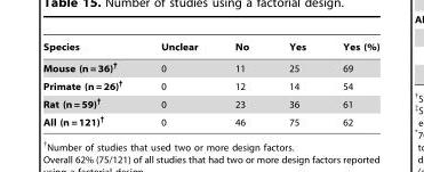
<table><thead><tr><td>Species</td><td>Unclear</td><td>No</td><td>Yes</td><td>Yes (%)</td></tr></thead><tbody><tr><td>Mouse (n = 36)†</td><td>0</td><td>11</td><td>25</td><td>69</td></tr><tr><td>Primate (n = 26)†</td><td>0</td><td>12</td><td>14</td><td>54</td></tr><tr><td>Rat (n = 59)†</td><td>0</td><td>23</td><td>36</td><td>61</td></tr><tr><td>All (n = 121)†</td><td>0</td><td>46</td><td>75</td><td>62</td></tr></tbody></table>